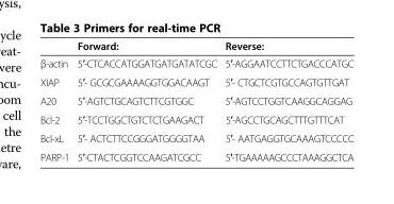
<table><thead><tr><td></td><td>Forward:</td><td>Reverse:</td></tr></thead><tbody><tr><td>β-actin</td><td>5′-CTCACCATGGATGATGATATCGC</td><td>5′-AGGAATCCTTCTGACCCATGC</td></tr><tr><td>XIAP</td><td>5′- GCGCGAAAAGGTGGACAAGT</td><td>5′- CTGCTCGTGCCAGTGTTGAT</td></tr><tr><td>A20</td><td>5′-AGTCTGCAGTCTTCGTGGC</td><td>5′-AGTCCTGGTCAAGGCAGGAG</td></tr><tr><td>Bcl-2</td><td>5′-TCCTGGCTGTCTCTGAAGACT</td><td>5′-AGCCTGCAGCTTTGTTTCAT</td></tr><tr><td>Bcl-xL</td><td>5′- ACTCTTCCGGGATGGGGTAA</td><td>5′- AATGAGGTGCAAAGTCCCCC</td></tr><tr><td>PARP-1</td><td>5′-CTACTCGGTCCAAGATCGCC</td><td>5′-TGAAAAAGCCCTAAAGGCTCA</td></tr></tbody></table>